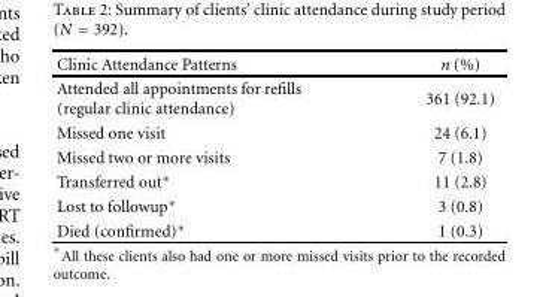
<table><thead><tr><td>Clinic Attendance Patterns</td><td>n (%)</td></tr></thead><tbody><tr><td>Attended all appointments for refills (regular clinic attendance)</td><td>361 (92.1)</td></tr><tr><td>Missed one visit</td><td>24 (6.1)</td></tr><tr><td>Missed two or more visits</td><td>7 (1.8)</td></tr><tr><td>Transferred out∗</td><td>11 (2.8)</td></tr><tr><td>Lost to followup∗</td><td>3 (0.8)</td></tr><tr><td>Died (confirmed)∗</td><td>1 (0.3)</td></tr></tbody></table>